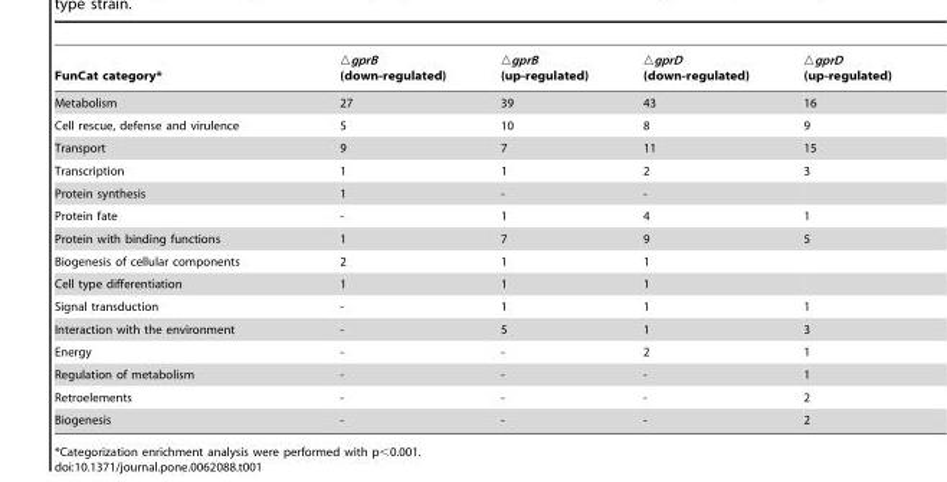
<table><thead><tr><td>FunCat category*</td><td>▵gprB (down-regulated)</td><td>▵gprB (up-regulated)</td><td>▵gprD (down-regulated)</td><td>▵gprD (up-regulated)</td></tr></thead><tbody><tr><td>Metabolism</td><td>27</td><td>39</td><td>43</td><td>16</td></tr><tr><td>Cell rescue, defense and virulence</td><td>5</td><td>10</td><td>8</td><td>9</td></tr><tr><td>Transport</td><td>9</td><td>7</td><td>11</td><td>15</td></tr><tr><td>Transcription</td><td>1</td><td>1</td><td>2</td><td>3</td></tr><tr><td>Protein synthesis</td><td>1</td><td>-</td><td>-</td><td></td></tr><tr><td>Protein fate</td><td>-</td><td>1</td><td>4</td><td>1</td></tr><tr><td>Protein with binding functions</td><td>1</td><td>7</td><td>9</td><td>5</td></tr><tr><td>Biogenesis of cellular components</td><td>2</td><td>1</td><td>1</td><td></td></tr><tr><td>Cell type differentiation</td><td>1</td><td>1</td><td>1</td><td></td></tr><tr><td>Signal transduction</td><td>-</td><td>1</td><td>1</td><td>1</td></tr><tr><td>Interaction with the environment</td><td>-</td><td>5</td><td>1</td><td>3</td></tr><tr><td>Energy</td><td>-</td><td>-</td><td>2</td><td>1</td></tr><tr><td>Regulation of metabolism</td><td>-</td><td>-</td><td>-</td><td>1</td></tr><tr><td>Retroelements</td><td>-</td><td>-</td><td>-</td><td>2</td></tr><tr><td>Biogenesis</td><td>-</td><td>-</td><td>-</td><td>2</td></tr></tbody></table>